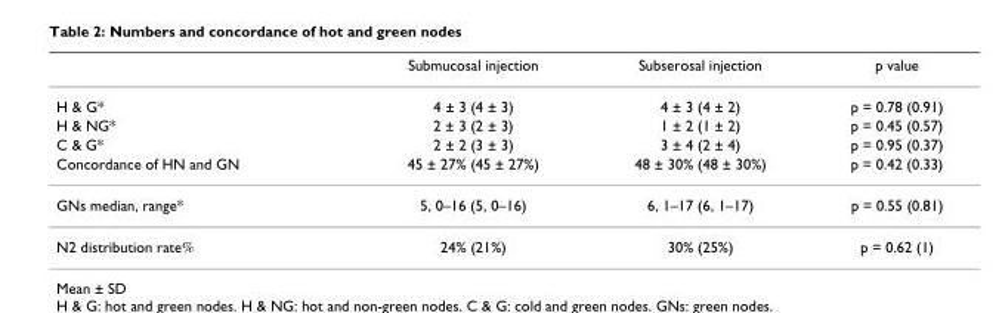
<table><thead><tr><td></td><td>Submucosal injection</td><td>Subserosal injection</td><td>p value</td></tr></thead><tbody><tr><td>H &amp; G*</td><td>4 ± 3 (4 ± 3)</td><td>4 ± 3 (4 ± 2)</td><td>p = 0.78 (0.91)</td></tr><tr><td>H &amp; NG*</td><td>2 ± 3 (2 ± 3)</td><td>1 ± 2 (1 ± 2)</td><td>p = 0.45 (0.57)</td></tr><tr><td>C &amp; G*</td><td>2 ± 2 (3 ± 3)</td><td>3 ± 4 (2 ± 4)</td><td>p = 0.95 (0.37)</td></tr><tr><td>Concordance of HN and GN</td><td>45 ± 27% (45 ± 27%)</td><td>48 ± 30% (48 ± 30%)</td><td>p = 0.42 (0.33)</td></tr><tr><td>GNs median, range*</td><td>5, 0–16 (5, 0–16)</td><td>6, 1–17 (6, 1–17)</td><td>p = 0.55 (0.81)</td></tr><tr><td>N2 distribution rate≦</td><td>24% (21%)</td><td>30% (25%)</td><td>p = 0.62 (1)</td></tr></tbody></table>